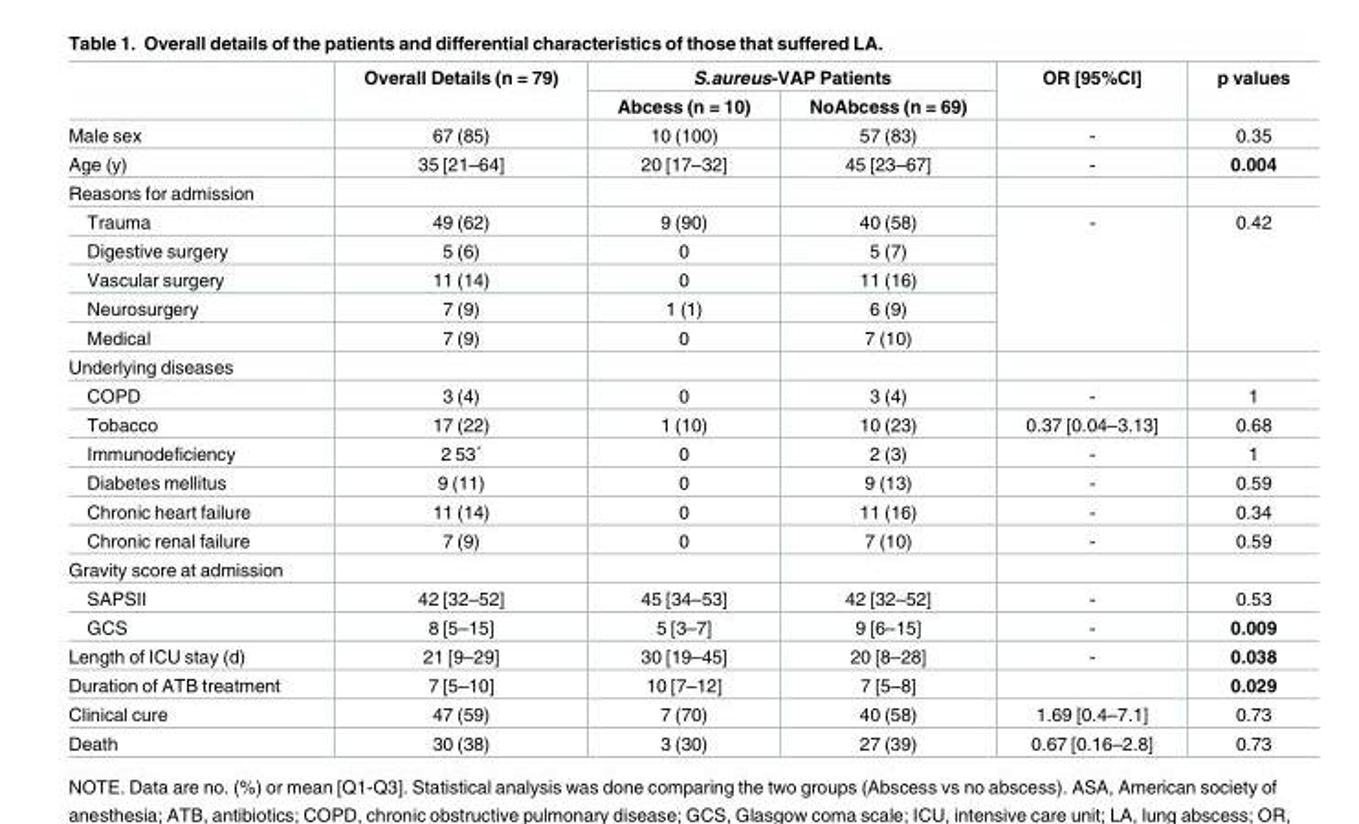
<table><thead><tr><td rowspan="2"></td><td rowspan="2">Overall Details (n = 79)</td><td colspan="2">S.aureus-VAP Patients</td><td rowspan="2">OR [95%CI]</td><td rowspan="2">p values</td></tr><tr><td>Abcess (n = 10)</td><td>NoAbcess (n = 69)</td></tr></thead><tbody><tr><td>Male sex</td><td>67 (85)</td><td>10 (100)</td><td>57 (83)</td><td>-</td><td>0.35</td></tr><tr><td>Age (y)</td><td>35 [21–64]</td><td>20 [17–32]</td><td>45 [23–67]</td><td>-</td><td>0.004</td></tr><tr><td colspan="6">Reasons for admission</td></tr><tr><td>Trauma</td><td>49 (62)</td><td>9 (90)</td><td>40 (58)</td><td rowspan="5">-</td><td rowspan="5">0.42</td></tr><tr><td>Digestive surgery</td><td>5 (6)</td><td>0</td><td>5 (7)</td></tr><tr><td>Vascular surgery</td><td>11 (14)</td><td>0</td><td>11 (16)</td></tr><tr><td>Neurosurgery</td><td>7 (9)</td><td>1 (1)</td><td>6 (9)</td></tr><tr><td>Medical</td><td>7 (9)</td><td>0</td><td>7 (10)</td></tr><tr><td colspan="6">Underlying diseases</td></tr><tr><td>COPD</td><td>3 (4)</td><td>0</td><td>3 (4)</td><td>-</td><td>1</td></tr><tr><td>Tobacco</td><td>17 (22)</td><td>1 (10)</td><td>10 (23)</td><td>0.37 [0.04–3.13]</td><td>0.68</td></tr><tr><td>Immunodeficiency</td><td>2 53˚</td><td>0</td><td>2 (3)</td><td>-</td><td>1</td></tr><tr><td>Diabetes mellitus</td><td>9 (11)</td><td>0</td><td>9 (13)</td><td>-</td><td>0.59</td></tr><tr><td>Chronic heart failure</td><td>11 (14)</td><td>0</td><td>11 (16)</td><td>-</td><td>0.34</td></tr><tr><td>Chronic renal failure</td><td>7 (9)</td><td>0</td><td>7 (10)</td><td>-</td><td>0.59</td></tr><tr><td colspan="6">Gravity score at admission</td></tr><tr><td>SAPSII</td><td>42 [32–52]</td><td>45 [34–53]</td><td>42 [32–52]</td><td>-</td><td>0.53</td></tr><tr><td>GCS</td><td>8 [5–15]</td><td>5 [3–7]</td><td>9 [6–15]</td><td>-</td><td>0.009</td></tr><tr><td>Length of ICU stay (d)</td><td>21 [9–29]</td><td>30 [19–45]</td><td>20 [8–28]</td><td>-</td><td>0.038</td></tr><tr><td>Duration of ATB treatment</td><td>7 [5–10]</td><td>10 [7–12]</td><td>7 [5–8]</td><td></td><td>0.029</td></tr><tr><td>Clinical cure</td><td>47 (59)</td><td>7 (70)</td><td>40 (58)</td><td>1.69 [0.4–7.1]</td><td>0.73</td></tr><tr><td>Death</td><td>30 (38)</td><td>3 (30)</td><td>27 (39)</td><td>0.67 [0.16–2.8]</td><td>0.73</td></tr></tbody></table>